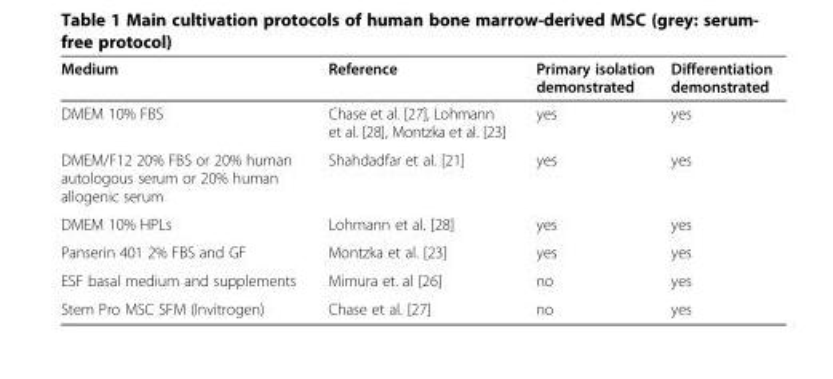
<table><thead><tr><td>Medium</td><td>Reference</td><td>Primary isolation demonstrated</td><td>Differentiation demonstrated</td></tr></thead><tbody><tr><td>DMEM 10% FBS</td><td>Chase et al. [27], Lohmann et al. [28], Montzka et al. [23]</td><td>yes</td><td>yes</td></tr><tr><td>DMEM/F12 20% FBS or 20% human autologous serum or 20% human allogenic serum</td><td>Shahdadfar et al. [21]</td><td>yes</td><td>yes</td></tr><tr><td>DMEM 10% HPLs</td><td>Lohmann et al. [28]</td><td>yes</td><td>yes</td></tr><tr><td>Panserin 401 2% FBS and GF</td><td>Montzka et al. [23]</td><td>yes</td><td>yes</td></tr><tr><td>ESF basal medium and supplements</td><td>Mimura et. al [26]</td><td>no</td><td>yes</td></tr><tr><td>Stem Pro MSC SFM (Invitrogen)</td><td>Chase et al. [27]</td><td>no</td><td>yes</td></tr></tbody></table>